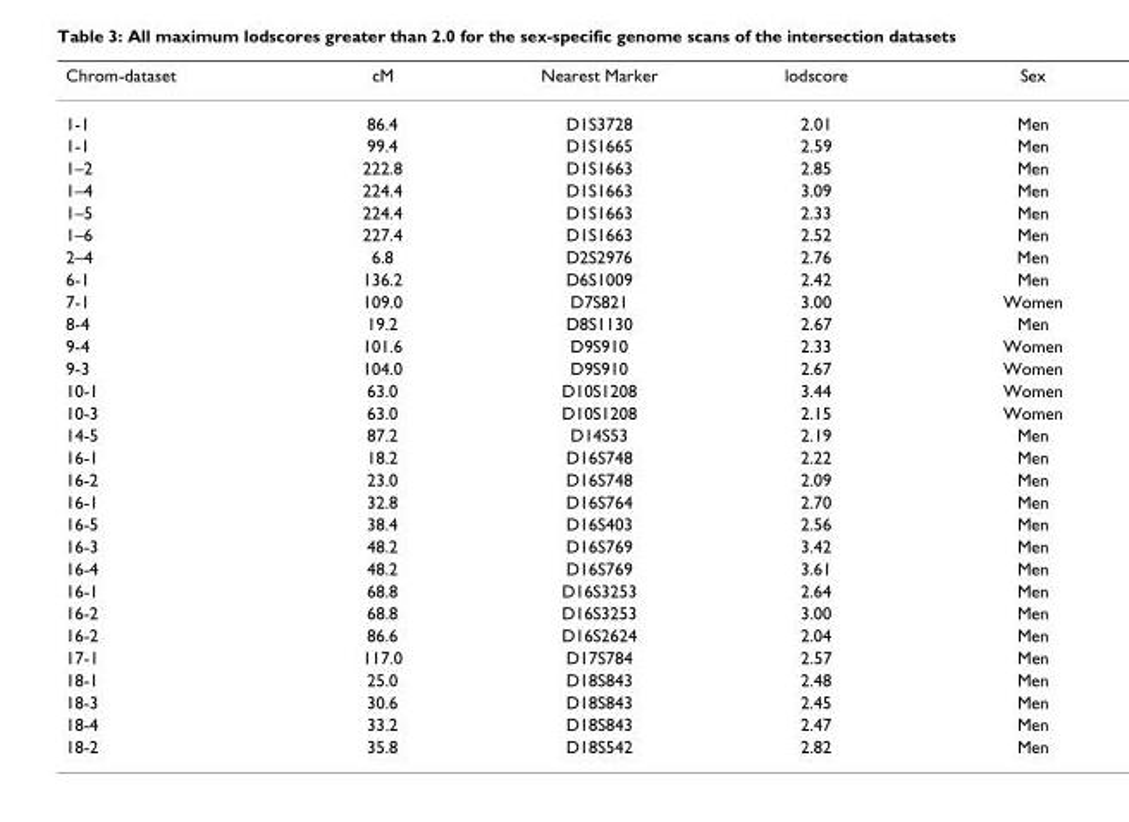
<table><thead><tr><td>Chrom-dataset</td><td>cM</td><td>Nearest Marker</td><td>lodscore</td><td>Sex</td></tr></thead><tbody><tr><td>1-1</td><td>86.4</td><td>D1S3728</td><td>2.01</td><td>Men</td></tr><tr><td>1-1</td><td>99.4</td><td>D1S1665</td><td>2.59</td><td>Men</td></tr><tr><td>1–2</td><td>222.8</td><td>D1S1663</td><td>2.85</td><td>Men</td></tr><tr><td>1–4</td><td>224.4</td><td>D1S1663</td><td>3.09</td><td>Men</td></tr><tr><td>1–5</td><td>224.4</td><td>D1S1663</td><td>2.33</td><td>Men</td></tr><tr><td>1–6</td><td>227.4</td><td>D1S1663</td><td>2.52</td><td>Men</td></tr><tr><td>2–4</td><td>6.8</td><td>D2S2976</td><td>2.76</td><td>Men</td></tr><tr><td>6-1</td><td>136.2</td><td>D6S1009</td><td>2.42</td><td>Men</td></tr><tr><td>7-1</td><td>109.0</td><td>D7S821</td><td>3.00</td><td>Women</td></tr><tr><td>8-4</td><td>19.2</td><td>D8S1130</td><td>2.67</td><td>Men</td></tr><tr><td>9-4</td><td>101.6</td><td>D9S910</td><td>2.33</td><td>Women</td></tr><tr><td>9-3</td><td>104.0</td><td>D9S910</td><td>2.67</td><td>Women</td></tr><tr><td>10-1</td><td>63.0</td><td>D10S1208</td><td>3.44</td><td>Women</td></tr><tr><td>10-3</td><td>63.0</td><td>D10S1208</td><td>2.15</td><td>Women</td></tr><tr><td>14-5</td><td>87.2</td><td>D14S53</td><td>2.19</td><td>Men</td></tr><tr><td>16-1</td><td>18.2</td><td>D16S748</td><td>2.22</td><td>Men</td></tr><tr><td>16-2</td><td>23.0</td><td>D16S748</td><td>2.09</td><td>Men</td></tr><tr><td>16-1</td><td>32.8</td><td>D16S764</td><td>2.70</td><td>Men</td></tr><tr><td>16-5</td><td>38.4</td><td>D16S403</td><td>2.56</td><td>Men</td></tr><tr><td>16-3</td><td>48.2</td><td>D16S769</td><td>3.42</td><td>Men</td></tr><tr><td>16-4</td><td>48.2</td><td>D16S769</td><td>3.61</td><td>Men</td></tr><tr><td>16-1</td><td>68.8</td><td>D16S3253</td><td>2.64</td><td>Men</td></tr><tr><td>16-2</td><td>68.8</td><td>D16S3253</td><td>3.00</td><td>Men</td></tr><tr><td>16-2</td><td>86.6</td><td>D16S2624</td><td>2.04</td><td>Men</td></tr><tr><td>17-1</td><td>117.0</td><td>D17S784</td><td>2.57</td><td>Men</td></tr><tr><td>18-1</td><td>25.0</td><td>D18S843</td><td>2.48</td><td>Men</td></tr><tr><td>18-3</td><td>30.6</td><td>D18S843</td><td>2.45</td><td>Men</td></tr><tr><td>18-4</td><td>33.2</td><td>D18S843</td><td>2.47</td><td>Men</td></tr><tr><td>18-2</td><td>35.8</td><td>D18S542</td><td>2.82</td><td>Men</td></tr></tbody></table>